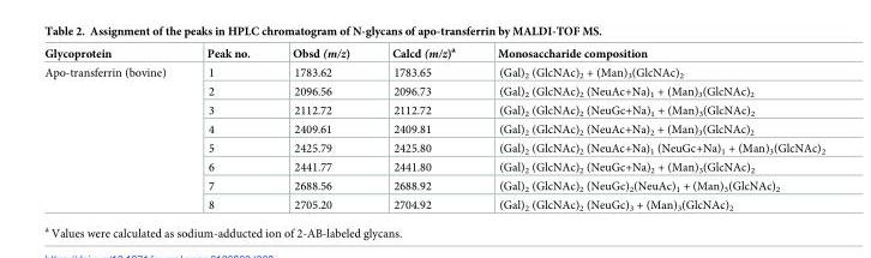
<table><thead><tr><td>Glycoprotein</td><td>Peak no.</td><td>Obsd (m/z)</td><td>Calcd (m/z)<sup>a</sup></td><td>Monosaccharide composition</td></tr></thead><tbody><tr><td rowspan="8">Apo-transferrin (bovine)</td><td>1</td><td>1783.62</td><td>1783.65</td><td>(Gal)<sub>2</sub> (GlcNAc)<sub>2</sub> + (Man)<sub>3</sub>(GlcNAc)<sub>2</sub></td></tr><tr><td>2</td><td>2096.56</td><td>2096.73</td><td>(Gal)<sub>2</sub> (GlcNAc)<sub>2</sub> (NeuAc+Na)<sub>1</sub> + (Man)<sub>3</sub>(GlcNAc)<sub>2</sub></td></tr><tr><td>3</td><td>2112.72</td><td>2112.72</td><td>(Gal)<sub>2</sub> (GlcNAc)<sub>2</sub> (NeuGc+Na)<sub>1</sub> + (Man)<sub>3</sub>(GlcNAc)<sub>2</sub></td></tr><tr><td>4</td><td>2409.61</td><td>2409.81</td><td>(Gal)<sub>2</sub> (GlcNAc)<sub>2</sub> (NeuAc+Na)<sub>2</sub> + (Man)<sub>3</sub>(GlcNAc)<sub>2</sub></td></tr><tr><td>5</td><td>2425.79</td><td>2425.80</td><td>(Gal)<sub>2</sub> (GlcNAc)<sub>2</sub> (NeuAc+Na)<sub>1</sub> (NeuGc+Na)<sub>1</sub> + (Man)<sub>3</sub>(GlcNAc)<sub>2</sub></td></tr><tr><td>6</td><td>2441.77</td><td>2441.80</td><td>(Gal)<sub>2</sub> (GlcNAc)<sub>2</sub> (NeuGc+Na)<sub>2</sub> + (Man)<sub>3</sub>(GlcNAc)<sub>2</sub></td></tr><tr><td>7</td><td>2688.56</td><td>2688.92</td><td>(Gal)<sub>2</sub> (GlcNAc)<sub>2</sub> (NeuGc)<sub>2</sub>(NeuAc)<sub>1</sub> + (Man)<sub>3</sub>(GlcNAc)<sub>2</sub></td></tr><tr><td>8</td><td>2705.20</td><td>2704.92</td><td>(Gal)<sub>2</sub> (GlcNAc)<sub>2</sub> (NeuGc)<sub>3</sub> + (Man)<sub>3</sub>(GlcNAc)<sub>2</sub></td></tr></tbody></table>